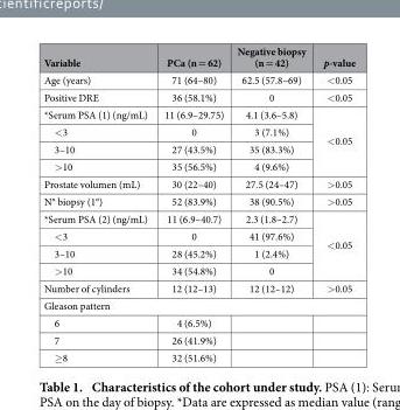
<table><thead><tr><td>Variable</td><td>PCa (n = 62)</td><td>Negative biopsy (n = 42)</td><td>p-value</td></tr></thead><tbody><tr><td>Age (years)</td><td>71 (64–80)</td><td>62.5 (57.8–69)</td><td>&lt; 0.05</td></tr><tr><td>Positive DRE</td><td>36 (58.1%)</td><td>0</td><td>&lt; 0.05</td></tr><tr><td>*Serum PSA (1) (ng/mL)</td><td>11 (6.9–29.75)</td><td>4.1 (3.6–5.8)</td><td rowspan="4">&lt; 0.05</td></tr><tr><td>&lt; 3</td><td>0</td><td>3 (7.1%)</td></tr><tr><td>3–10</td><td>27 (43.5%)</td><td>35 (83.3%)</td></tr><tr><td>&gt; 10</td><td>35 (56.5%)</td><td>4 (9.6%)</td></tr><tr><td>Prostate volumen (mL)</td><td>30 (22–40)</td><td>27.5 (24–47)</td><td>&gt; 0.05</td></tr><tr><td>N° biopsy (1°)</td><td>52 (83.9%)</td><td>38 (90.5%)</td><td>&gt; 0.05</td></tr><tr><td>*Serum PSA (2) (ng/mL)</td><td>11 (6.9–40.7)</td><td>2.3 (1.8–2.7)</td><td rowspan="4">&lt; 0.05</td></tr><tr><td>&lt; 3</td><td>0</td><td>41 (97.6%)</td></tr><tr><td>3–10</td><td>28 (45.2%)</td><td>1 (2.4%)</td></tr><tr><td>&gt; 10</td><td>34 (54.8%)</td><td>0</td></tr><tr><td>Number of cylinders</td><td>12 (12–13)</td><td>12 (12–12)</td><td>&gt; 0.05</td></tr><tr><td colspan="4">Gleason pattern</td></tr><tr><td>6</td><td>4 (6.5%)</td><td></td><td></td></tr><tr><td>7</td><td>26 (41.9%)</td><td></td><td></td></tr><tr><td>≥ 8</td><td>32 (51.6%)</td><td></td><td></td></tr></tbody></table>